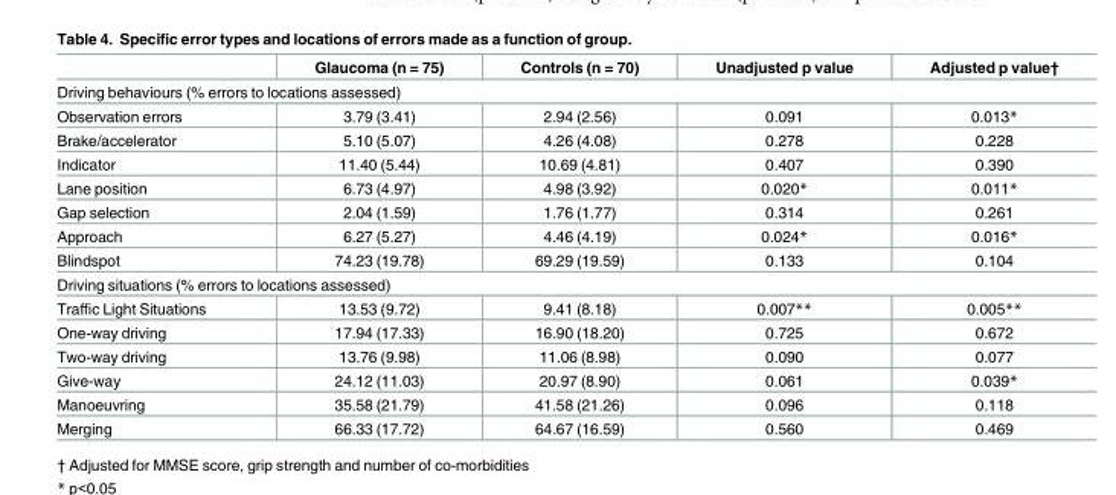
<table><thead><tr><td></td><td>Glaucoma (n = 75)</td><td>Controls (n = 70)</td><td>Unadjusted p value</td><td>Adjusted p value†</td></tr></thead><tbody><tr><td colspan="5">Driving behaviours (% errors to locations assessed)</td></tr><tr><td>Observation errors</td><td>3.79 (3.41)</td><td>2.94 (2.56)</td><td>0.091</td><td>0.013*</td></tr><tr><td>Brake/accelerator</td><td>5.10 (5.07)</td><td>4.26 (4.08)</td><td>0.278</td><td>0.228</td></tr><tr><td>Indicator</td><td>11.40 (5.44)</td><td>10.69 (4.81)</td><td>0.407</td><td>0.390</td></tr><tr><td>Lane position</td><td>6.73 (4.97)</td><td>4.98 (3.92)</td><td>0.020*</td><td>0.011*</td></tr><tr><td>Gap selection</td><td>2.04 (1.59)</td><td>1.76 (1.77)</td><td>0.314</td><td>0.261</td></tr><tr><td>Approach</td><td>6.27 (5.27)</td><td>4.46 (4.19)</td><td>0.024*</td><td>0.016*</td></tr><tr><td>Blindspot</td><td>74.23 (19.78)</td><td>69.29 (19.59)</td><td>0.133</td><td>0.104</td></tr><tr><td colspan="5">Driving situations (% errors to locations assessed)</td></tr><tr><td>Traffic Light Situations</td><td>13.53 (9.72)</td><td>9.41 (8.18)</td><td>0.007**</td><td>0.005**</td></tr><tr><td>One-way driving</td><td>17.94 (17.33)</td><td>16.90 (18.20)</td><td>0.725</td><td>0.672</td></tr><tr><td>Two-way driving</td><td>13.76 (9.98)</td><td>11.06 (8.98)</td><td>0.090</td><td>0.077</td></tr><tr><td>Give-way</td><td>24.12 (11.03)</td><td>20.97 (8.90)</td><td>0.061</td><td>0.039*</td></tr><tr><td>Manoeuvring</td><td>35.58 (21.79)</td><td>41.58 (21.26)</td><td>0.096</td><td>0.118</td></tr><tr><td>Merging</td><td>66.33 (17.72)</td><td>64.67 (16.59)</td><td>0.560</td><td>0.469</td></tr></tbody></table>